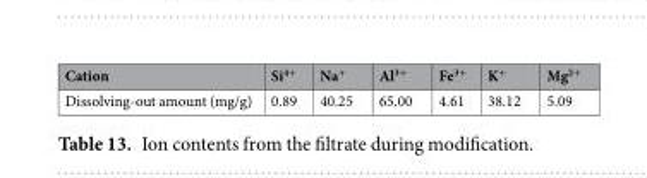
<table><thead><tr><td>Cation</td><td>Si<sup>4+</sup></td><td>Na<sup>+</sup></td><td>Al<sup>3+</sup></td><td>Fe<sup>3+</sup></td><td>K<sup>+</sup></td><td>Mg<sup>2+</sup></td></tr></thead><tbody><tr><td>Dissolving-out amount (mg/g)</td><td>0.89</td><td>40.25</td><td>65.00</td><td>4.61</td><td>38.12</td><td>5.09</td></tr></tbody></table>